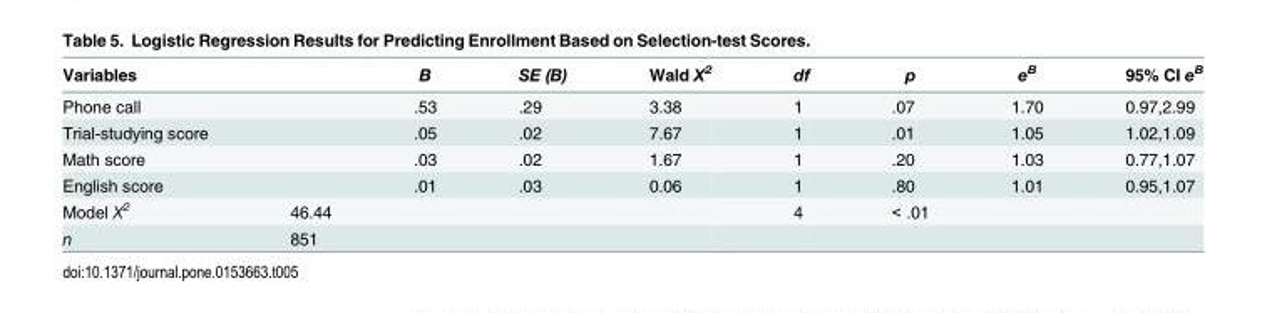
<table><thead><tr><td>Variables</td><td></td><td>B</td><td>SE (B)</td><td>Wald X<sup>2</sup></td><td>df</td><td>p</td><td>e<sup>B</sup></td><td>95% CI e<sup>B</sup></td></tr></thead><tbody><tr><td>Phone call</td><td></td><td>.53</td><td>.29</td><td>3.38</td><td>1</td><td>.07</td><td>1.70</td><td>0.97,2.99</td></tr><tr><td>Trial-studying score</td><td></td><td>.05</td><td>.02</td><td>7.67</td><td>1</td><td>.01</td><td>1.05</td><td>1.02,1.09</td></tr><tr><td>Math score</td><td></td><td>.03</td><td>.02</td><td>1.67</td><td>1</td><td>.20</td><td>1.03</td><td>0.77,1.07</td></tr><tr><td>English score</td><td></td><td>.01</td><td>.03</td><td>0.06</td><td>1</td><td>.80</td><td>1.01</td><td>0.95,1.07</td></tr><tr><td>Model X<sup>2</sup></td><td>46.44</td><td></td><td></td><td></td><td>4</td><td>&lt; .01</td><td></td><td></td></tr><tr><td>n</td><td>851</td><td></td><td></td><td></td><td></td><td></td><td></td><td></td></tr></tbody></table>